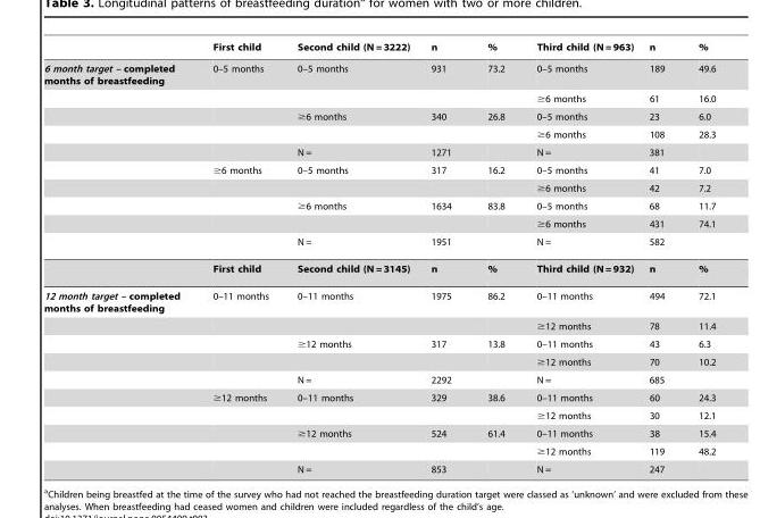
<table><thead><tr><td></td><td>First child</td><td>Second child (N = 3222)</td><td>n</td><td>%</td><td>Third child (N = 963)</td><td>n</td><td>%</td></tr></thead><tbody><tr><td rowspan="11">6 month target – completed months of breastfeeding</td><td>0–5 months</td><td>0–5 months</td><td>931</td><td>73.2</td><td>0–5 months</td><td>189</td><td>49.6</td></tr><tr><td></td><td></td><td></td><td></td><td>≥6 months</td><td>61</td><td>16.0</td></tr><tr><td></td><td>≥6 months</td><td>340</td><td>26.8</td><td>0–5 months</td><td>23</td><td>6.0</td></tr><tr><td></td><td></td><td></td><td></td><td>≥6 months</td><td>108</td><td>28.3</td></tr><tr><td></td><td>N =</td><td>1271</td><td></td><td>N =</td><td>381</td><td></td></tr><tr><td>≥6 months</td><td>0–5 months</td><td>317</td><td>16.2</td><td>0–5 months</td><td>41</td><td>7.0</td></tr><tr><td></td><td></td><td></td><td></td><td>≥6 months</td><td>42</td><td>7.2</td></tr><tr><td></td><td>≥6 months</td><td>1634</td><td>83.8</td><td>0–5 months</td><td>68</td><td>11.7</td></tr><tr><td></td><td></td><td></td><td></td><td>≥6 months</td><td>431</td><td>74.1</td></tr><tr><td></td><td>N =</td><td>1951</td><td></td><td>N =</td><td>582</td><td></td></tr><tr><td>First child</td><td>Second child (N = 3145)</td><td>n</td><td>%</td><td>Third child (N = 932)</td><td>n</td><td>%</td></tr><tr><td rowspan="10">12 month target – completed months of breastfeeding</td><td>0–11 months</td><td>0–11 months</td><td>1975</td><td>86.2</td><td>0–11 months</td><td>494</td><td>72.1</td></tr><tr><td></td><td></td><td></td><td></td><td>≥12 months</td><td>78</td><td>11.4</td></tr><tr><td></td><td>≥12 months</td><td>317</td><td>13.8</td><td>0–11 months</td><td>43</td><td>6.3</td></tr><tr><td></td><td></td><td></td><td></td><td>≥12 months</td><td>70</td><td>10.2</td></tr><tr><td></td><td>N =</td><td>2292</td><td></td><td>N =</td><td>685</td><td></td></tr><tr><td>≥12 months</td><td>0–11 months</td><td>329</td><td>38.6</td><td>0–11 months</td><td>60</td><td>24.3</td></tr><tr><td></td><td></td><td></td><td></td><td>≥12 months</td><td>30</td><td>12.1</td></tr><tr><td></td><td>≥12 months</td><td>524</td><td>61.4</td><td>0–11 months</td><td>38</td><td>15.4</td></tr><tr><td></td><td></td><td></td><td></td><td>≥12 months</td><td>119</td><td>48.2</td></tr><tr><td></td><td>N =</td><td>853</td><td></td><td>N =</td><td>247</td><td></td></tr></tbody></table>